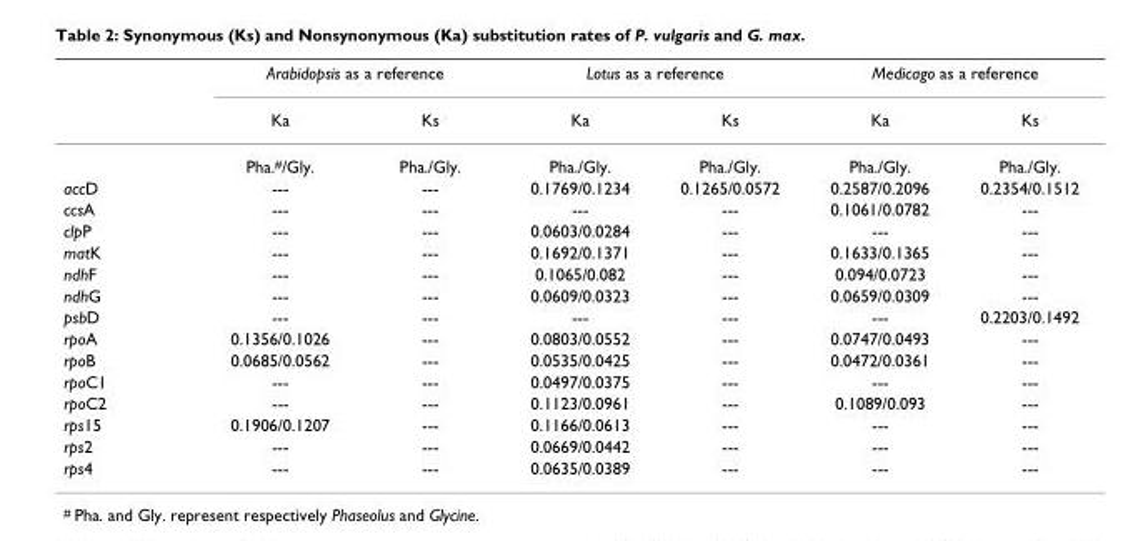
<table><thead><tr><td rowspan="2"></td><td colspan="2">Arabidopsis as a reference</td><td colspan="2">Lotus as a reference</td><td colspan="2">Medicago as a reference</td></tr><tr><td>Ka</td><td>Ks</td><td>Ka</td><td>Ks</td><td>Ka</td><td>Ks</td></tr></thead><tbody><tr><td></td><td>Pha.<sup>#</sup>/Gly.</td><td>Pha./Gly.</td><td>Pha./Gly.</td><td>Pha./Gly.</td><td>Pha./Gly.</td><td>Pha./Gly.</td></tr><tr><td>accD</td><td>---</td><td>---</td><td>0.1769/0.1234</td><td>0.1265/0.0572</td><td>0.2587/0.2096</td><td>0.2354/0.1512</td></tr><tr><td>ccsA</td><td>---</td><td>---</td><td>---</td><td>---</td><td>0.1061/0.0782</td><td>---</td></tr><tr><td>clpP</td><td>---</td><td>---</td><td>0.0603/0.0284</td><td>---</td><td>---</td><td>---</td></tr><tr><td>matK</td><td>---</td><td>---</td><td>0.1692/0.1371</td><td>---</td><td>0.1633/0.1365</td><td>---</td></tr><tr><td>ndhF</td><td>---</td><td>---</td><td>0.1065/0.082</td><td>---</td><td>0.094/0.0723</td><td>---</td></tr><tr><td>ndhG</td><td>---</td><td>---</td><td>0.0609/0.0323</td><td>---</td><td>0.0659/0.0309</td><td>---</td></tr><tr><td>psbD</td><td>---</td><td>---</td><td>---</td><td>---</td><td>---</td><td>0.2203/0.1492</td></tr><tr><td>rpoA</td><td>0.1356/0.1026</td><td>---</td><td>0.0803/0.0552</td><td>---</td><td>0.0747/0.0493</td><td>---</td></tr><tr><td>rpoB</td><td>0.0685/0.0562</td><td>---</td><td>0.0535/0.0425</td><td>---</td><td>0.0472/0.0361</td><td>---</td></tr><tr><td>rpoC1</td><td>---</td><td>---</td><td>0.0497/0.0375</td><td>---</td><td>---</td><td>---</td></tr><tr><td>rpoC2</td><td>---</td><td>---</td><td>0.1123/0.0961</td><td>---</td><td>0.1089/0.093</td><td>---</td></tr><tr><td>rps15</td><td>0.1906/0.1207</td><td>---</td><td>0.1166/0.0613</td><td>---</td><td>---</td><td>---</td></tr><tr><td>rps2</td><td>---</td><td>---</td><td>0.0669/0.0442</td><td>---</td><td>---</td><td>---</td></tr><tr><td>rps4</td><td>---</td><td>---</td><td>0.0635/0.0389</td><td>---</td><td>---</td><td>---</td></tr></tbody></table>